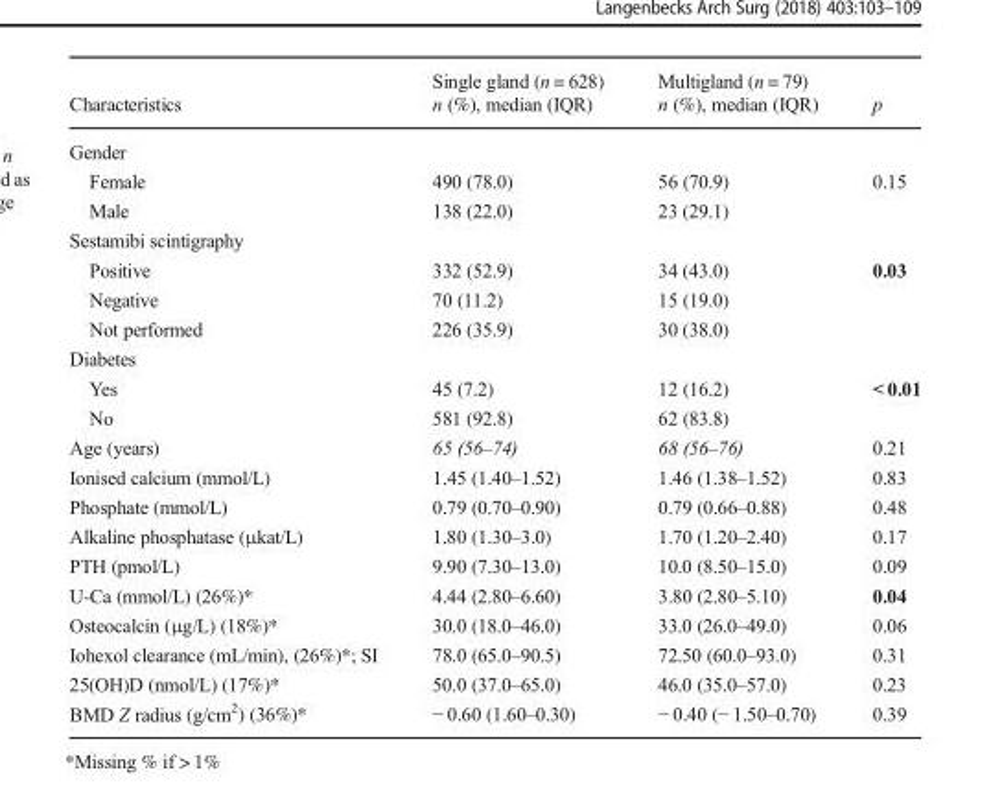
<table><thead><tr><td rowspan="2">Characteristics</td><td rowspan="2">Single gland (n = 628) n (%), median (IQR)</td><td rowspan="2">Multigland (n = 79) n (%), median (IQR)</td><td rowspan="2">p</td></tr><tr></tr></thead><tbody><tr><td colspan="4">Gender</td></tr><tr><td>Female</td><td>490 (78.0)</td><td>56 (70.9)</td><td>0.15</td></tr><tr><td>Male</td><td>138 (22.0)</td><td>23 (29.1)</td><td></td></tr><tr><td colspan="4">Sestamibi scintigraphy</td></tr><tr><td>Positive</td><td>332 (52.9)</td><td>34 (43.0)</td><td>0.03</td></tr><tr><td>Negative</td><td>70 (11.2)</td><td>15 (19.0)</td><td></td></tr><tr><td>Not performed</td><td>226 (35.9)</td><td>30 (38.0)</td><td></td></tr><tr><td colspan="4">Diabetes</td></tr><tr><td>Yes</td><td>45 (7.2)</td><td>12 (16.2)</td><td>&lt; 0.01</td></tr><tr><td>No</td><td>581 (92.8)</td><td>62 (83.8)</td><td></td></tr><tr><td>Age (years)</td><td>65 (56–74)</td><td>68 (56–76)</td><td>0.21</td></tr><tr><td>Ionised calcium (mmol/L)</td><td>1.45 (1.40–1.52)</td><td>1.46 (1.38–1.52)</td><td>0.83</td></tr><tr><td>Phosphate (mmol/L)</td><td>0.79 (0.70–0.90)</td><td>0.79 (0.66–0.88)</td><td>0.48</td></tr><tr><td>Alkaline phosphatase (μkat/L)</td><td>1.80 (1.30–3.0)</td><td>1.70 (1.20–2.40)</td><td>0.17</td></tr><tr><td>PTH (pmol/L)</td><td>9.90 (7.30–13.0)</td><td>10.0 (8.50–15.0)</td><td>0.09</td></tr><tr><td>U-Ca (mmol/L) (26%)*</td><td>4.44 (2.80–6.60)</td><td>3.80 (2.80–5.10)</td><td>0.04</td></tr><tr><td>Osteocalcin (μg/L) (18%)*</td><td>30.0 (18.0–46.0)</td><td>33.0 (26.0–49.0)</td><td>0.06</td></tr><tr><td>Iohexol clearance (mL/min), (26%)*; SI</td><td>78.0 (65.0–90.5)</td><td>72.50 (60.0–93.0)</td><td>0.31</td></tr><tr><td>25(OH)D (nmol/L) (17%)*</td><td>50.0 (37.0–65.0)</td><td>46.0 (35.0–57.0)</td><td>0.23</td></tr><tr><td>BMD Z radius (g/cm<sup>2</sup>) (36%)*</td><td>− 0.60 (1.60–0.30)</td><td>− 0.40 (− 1.50–0.70)</td><td>0.39</td></tr></tbody></table>